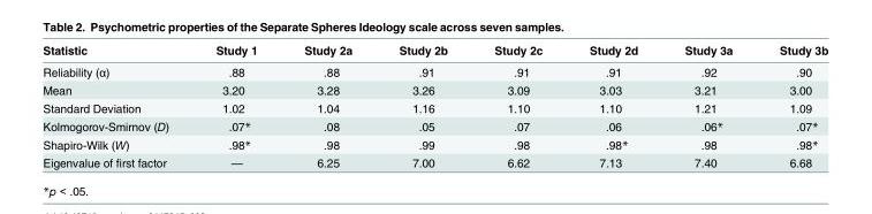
<table><thead><tr><td>Statistic</td><td>Study 1</td><td>Study 2a</td><td>Study 2b</td><td>Study 2c</td><td>Study 2d</td><td>Study 3a</td><td>Study 3b</td></tr></thead><tbody><tr><td>Reliability (α)</td><td>.88</td><td>.88</td><td>.91</td><td>.91</td><td>.91</td><td>.92</td><td>.90</td></tr><tr><td>Mean</td><td>3.20</td><td>3.28</td><td>3.26</td><td>3.09</td><td>3.03</td><td>3.21</td><td>3.00</td></tr><tr><td>Standard Deviation</td><td>1.02</td><td>1.04</td><td>1.16</td><td>1.10</td><td>1.10</td><td>1.21</td><td>1.09</td></tr><tr><td>Kolmogorov-Smirnov (D)</td><td>.07*</td><td>.08</td><td>.05</td><td>.07</td><td>.06</td><td>.06*</td><td>.07*</td></tr><tr><td>Shapiro-Wilk (W)</td><td>.98*</td><td>.98</td><td>.99</td><td>.98</td><td>.98*</td><td>.98</td><td>.98*</td></tr><tr><td>Eigenvalue of first factor</td><td>—</td><td>6.25</td><td>7.00</td><td>6.62</td><td>7.13</td><td>7.40</td><td>6.68</td></tr></tbody></table>